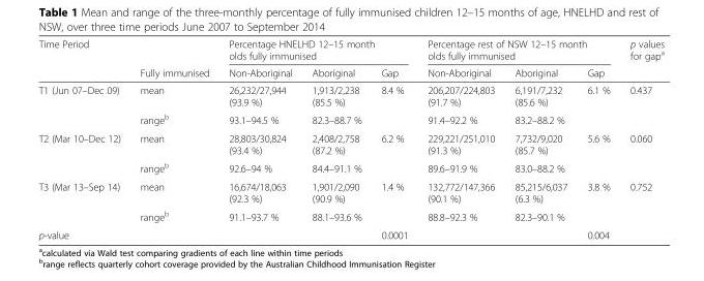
<table><thead><tr><td rowspan="2">Time Period</td><td rowspan="2">Fully immunised</td><td colspan="3">Percentage HNELHD 12–15 month olds fully immunised</td><td colspan="3">Percentage rest of NSW 12–15 month olds fully immunised</td><td rowspan="2">p values for gap<sup>a</sup></td></tr><tr><td>Non-Aboriginal</td><td>Aboriginal</td><td>Gap</td><td>Non-Aboriginal</td><td>Aboriginal</td><td>Gap</td></tr></thead><tbody><tr><td rowspan="2">T1 (Jun 07–Dec 09)</td><td>mean</td><td>26,232/27,944 (93.9 %)</td><td>1,913/2,238 (85.5 %)</td><td>8.4 %</td><td>206,207/224,803 (91.7 %)</td><td>6,191/7,232 (85.6 %)</td><td>6.1 %</td><td>0.437</td></tr><tr><td>range<sup>b</sup></td><td>93.1–94.5 %</td><td>82.3–88.7 %</td><td></td><td>91.4–92.2 %</td><td>83.2–88.2 %</td><td></td><td></td></tr><tr><td rowspan="2">T2 (Mar 10–Dec 12)</td><td>mean</td><td>28,803/30,824 (93.4 %)</td><td>2,408/2,758 (87.2 %)</td><td>6.2 %</td><td>229,221/251,010 (91.3 %)</td><td>7,732/9,020 (85.7 %)</td><td>5.6 %</td><td>0.060</td></tr><tr><td>range<sup>b</sup></td><td>92.6–94 %</td><td>84.4–91.1 %</td><td></td><td>89.6–91.9 %</td><td>83.0–88.2 %</td><td></td><td></td></tr><tr><td rowspan="2">T3 (Mar 13–Sep 14)</td><td>mean</td><td>16,674/18,063 (92.3 %)</td><td>1,901/2,090 (90.9 %)</td><td>1.4 %</td><td>132,772/147,366 (90.1 %)</td><td>85,215/6,037 (6.3 %)</td><td>3.8 %</td><td>0.752</td></tr><tr><td>range<sup>b</sup></td><td>91.1–93.7 %</td><td>88.1–93.6 %</td><td></td><td>88.8–92.3 %</td><td>82.3–90.1 %</td><td></td><td></td></tr><tr><td>p-value</td><td></td><td></td><td></td><td>0.0001</td><td></td><td></td><td>0.004</td><td></td></tr></tbody></table>